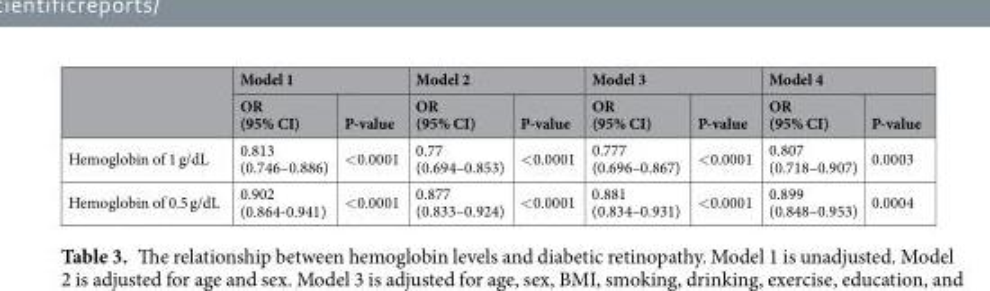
<table><thead><tr><td rowspan="2"></td><td colspan="2">Model 1</td><td colspan="2">Model 2</td><td colspan="2">Model 3</td><td colspan="2">Model 4</td></tr><tr><td>OR (95% CI)</td><td>P-value</td><td>OR (95% CI)</td><td>P-value</td><td>OR (95% CI)</td><td>P-value</td><td>OR (95% CI)</td><td>P-value</td></tr></thead><tbody><tr><td>Hemoglobin of 1 g/dL</td><td>0.813 (0.746–0.886)</td><td>&lt;0.0001</td><td>0.77 (0.694–0.853)</td><td>&lt;0.0001</td><td>0.777 (0.696–0.867)</td><td>&lt;0.0001</td><td>0.807 (0.718–0.907)</td><td>0.0003</td></tr><tr><td>Hemoglobin of 0.5 g/dL</td><td>0.902 (0.864-0.941)</td><td>&lt;0.0001</td><td>0.877 (0.833–0.924)</td><td>&lt;0.0001</td><td>0.881 (0.834–0.931)</td><td>&lt;0.0001</td><td>0.899 (0.848–0.953)</td><td>0.0004</td></tr></tbody></table>